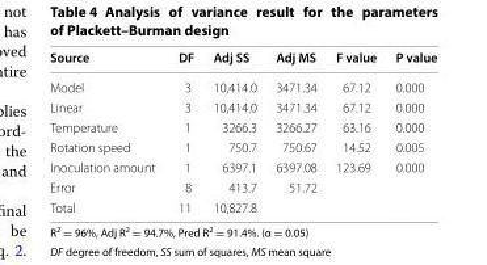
<table><thead><tr><td>Source</td><td>DF</td><td>Adj SS</td><td>Adj MS</td><td>F value</td><td>P value</td></tr></thead><tbody><tr><td>Model</td><td>3</td><td>10,414.0</td><td>3471.34</td><td>67.12</td><td>0.000</td></tr><tr><td>Linear</td><td>3</td><td>10,414.0</td><td>3471.34</td><td>67.12</td><td>0.000</td></tr><tr><td>Temperature</td><td>1</td><td>3266.3</td><td>3266.27</td><td>63.16</td><td>0.000</td></tr><tr><td>Rotation speed</td><td>1</td><td>750.7</td><td>750.67</td><td>14.52</td><td>0.005</td></tr><tr><td>Inoculation amount</td><td>1</td><td>6397.1</td><td>6397.08</td><td>123.69</td><td>0.000</td></tr><tr><td>Error</td><td>8</td><td>413.7</td><td>51.72</td><td></td><td></td></tr><tr><td>Total</td><td>11</td><td>10,827.8</td><td></td><td></td><td></td></tr></tbody></table>